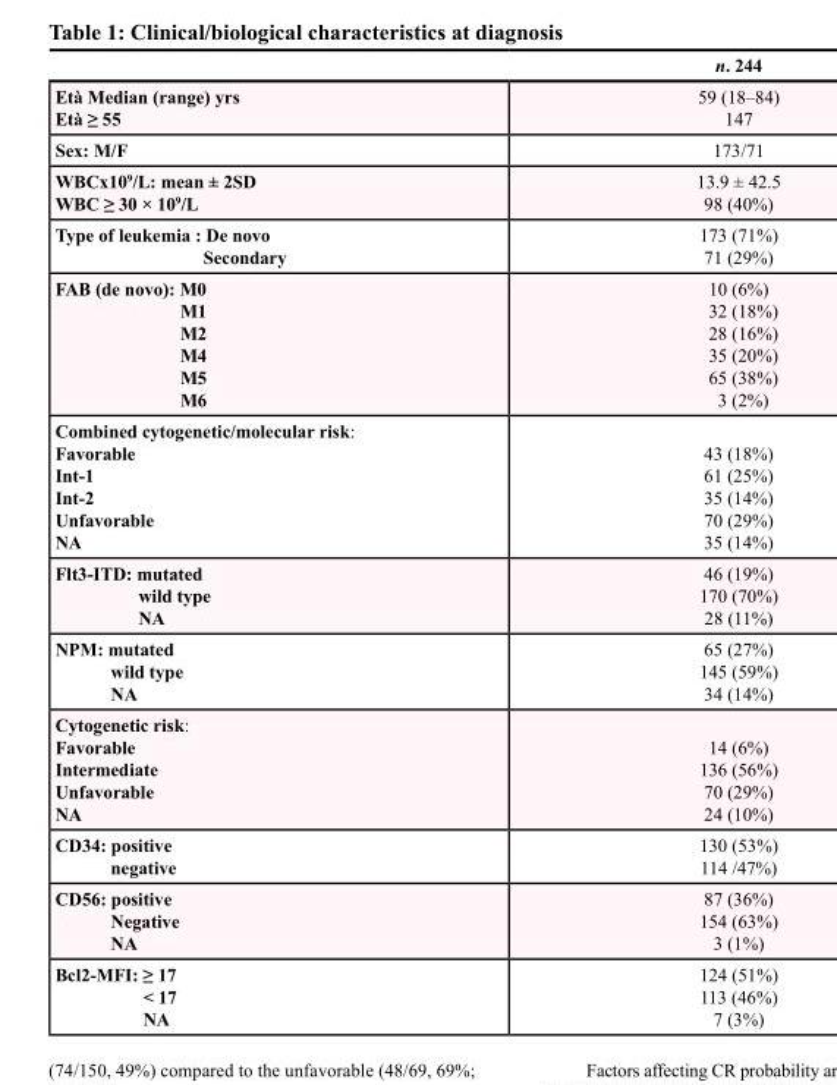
<table><thead><tr><td></td><td>n. 244</td></tr></thead><tbody><tr><td>Età Median (range) yrs Età ≥ 55</td><td>59 (18–84) 147</td></tr><tr><td>Sex: M/F</td><td>173/71</td></tr><tr><td>WBCx10<sup>9</sup>/L: mean ± 2SD WBC ≥ 30 × 10<sup>9</sup>/L</td><td>13.9 ± 42.5 98 (40%)</td></tr><tr><td>Type of leukemia : De novo Secondary</td><td>173 (71%) 71 (29%)</td></tr><tr><td>FAB (de novo): M0 M1 M2 M4 M5 M6</td><td>10 (6%) 32 (18%) 28 (16%) 35 (20%) 65 (38%) 3 (2%)</td></tr><tr><td>Combined cytogenetic/molecular risk: Favorable Int-1 Int-2 Unfavorable NA</td><td>43 (18%) 61 (25%) 35 (14%) 70 (29%) 35 (14%)</td></tr><tr><td>Flt3-ITD: mutated wild type NA</td><td>46 (19%) 170 (70%) 28 (11%)</td></tr><tr><td>NPM: mutated wild type NA</td><td>65 (27%) 145 (59%) 34 (14%)</td></tr><tr><td>Cytogenetic risk: Favorable Intermediate Unfavorable NA</td><td>14 (6%) 136 (56%) 70 (29%) 24 (10%)</td></tr><tr><td>CD34: positive negative</td><td>130 (53%) 114 /47%)</td></tr><tr><td>CD56: positive Negative NA</td><td>87 (36%) 154 (63%) 3 (1%)</td></tr><tr><td>Bcl2-MFI: ≥ 17 &lt; 17 NA</td><td>124 (51%) 113 (46%) 7 (3%)</td></tr></tbody></table>